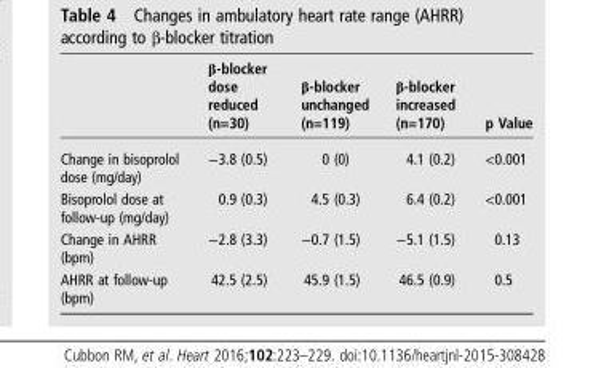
<table><thead><tr><td></td><td>β-blocker dose reduced (n=30)</td><td>β-blocker unchanged (n=119)</td><td>β-blocker increased (n=170)</td><td>p Value</td></tr></thead><tbody><tr><td>Change in bisoprolol dose (mg/day)</td><td>−3.8 (0.5)</td><td>0 (0)</td><td>4.1 (0.2)</td><td>&lt;0.001</td></tr><tr><td>Bisoprolol dose at follow-up (mg/day)</td><td>0.9 (0.3)</td><td>4.5 (0.3)</td><td>6.4 (0.2)</td><td>&lt;0.001</td></tr><tr><td>Change in AHRR (bpm)</td><td>−2.8 (3.3)</td><td>−0.7 (1.5)</td><td>−5.1 (1.5)</td><td>0.13</td></tr><tr><td>AHRR at follow-up (bpm)</td><td>42.5 (2.5)</td><td>45.9 (1.5)</td><td>46.5 (0.9)</td><td>0.5</td></tr></tbody></table>